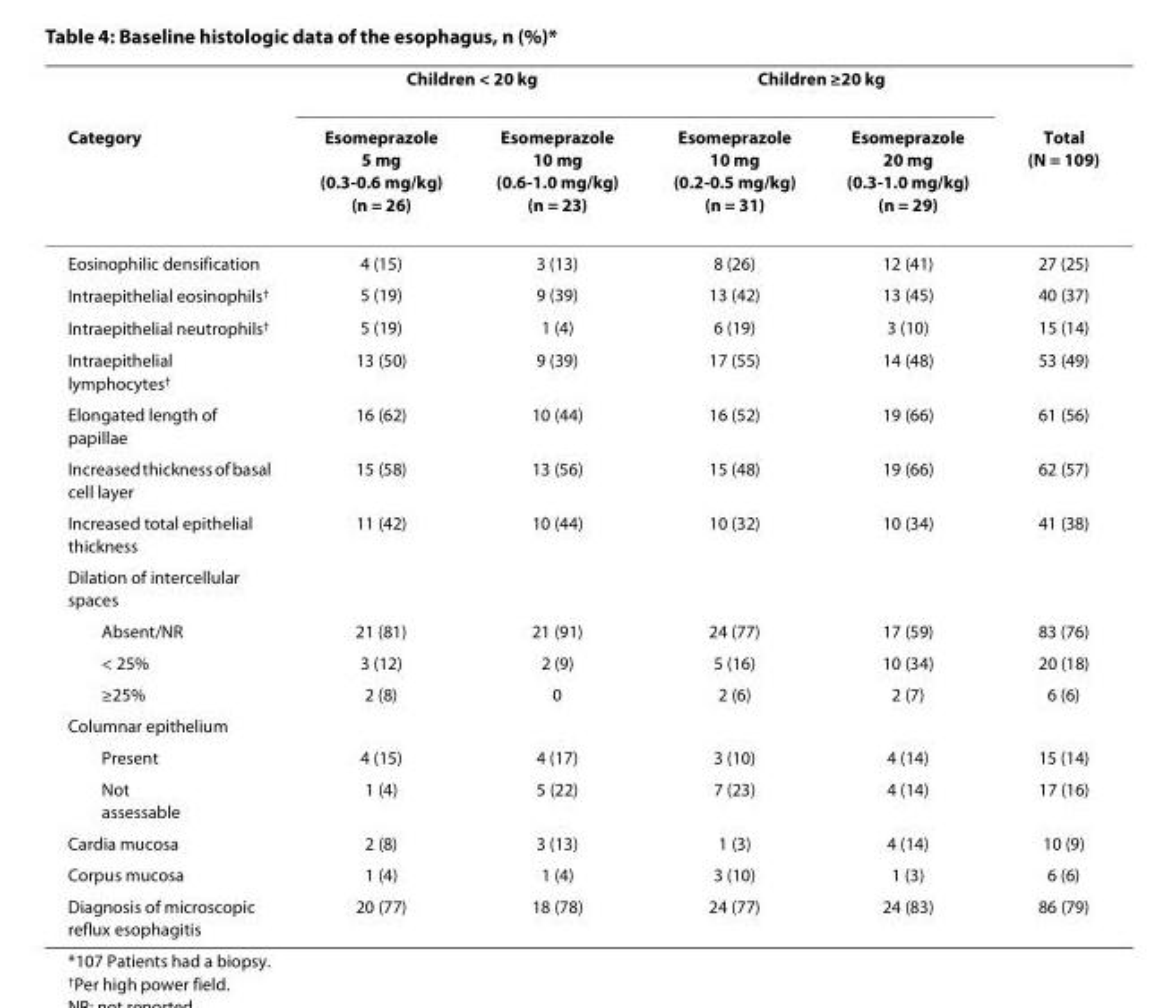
<table><thead><tr><td rowspan="2">Category</td><td colspan="2">Children &lt; 20 kg</td><td colspan="2">Children ≥20 kg</td><td rowspan="2">Total (N = 109)</td></tr><tr><td>Esomeprazole 5 mg (0.3-0.6 mg/kg) (n = 26)</td><td>Esomeprazole 10 mg (0.6-1.0 mg/kg) (n = 23)</td><td>Esomeprazole 10 mg (0.2-0.5 mg/kg) (n = 31)</td><td>Esomeprazole 20 mg (0.3-1.0 mg/kg) (n = 29)</td></tr></thead><tbody><tr><td>Eosinophilic densification</td><td>4 (15)</td><td>3 (13)</td><td>8 (26)</td><td>12 (41)</td><td>27 (25)</td></tr><tr><td>Intraepithelial eosinophils<sup>†</sup></td><td>5 (19)</td><td>9 (39)</td><td>13 (42)</td><td>13 (45)</td><td>40 (37)</td></tr><tr><td>Intraepithelial neutrophils<sup>†</sup></td><td>5 (19)</td><td>1 (4)</td><td>6 (19)</td><td>3 (10)</td><td>15 (14)</td></tr><tr><td>Intraepithelial lymphocytes<sup>†</sup></td><td>13 (50)</td><td>9 (39)</td><td>17 (55)</td><td>14 (48)</td><td>53 (49)</td></tr><tr><td>Elongated length of papillae</td><td>16 (62)</td><td>10 (44)</td><td>16 (52)</td><td>19 (66)</td><td>61 (56)</td></tr><tr><td>Increased thickness of basal cell layer</td><td>15 (58)</td><td>13 (56)</td><td>15 (48)</td><td>19 (66)</td><td>62 (57)</td></tr><tr><td>Increased total epithelial thickness</td><td>11 (42)</td><td>10 (44)</td><td>10 (32)</td><td>10 (34)</td><td>41 (38)</td></tr><tr><td colspan="6">Dilation of intercellular spaces</td></tr><tr><td>Absent/NR</td><td>21 (81)</td><td>21 (91)</td><td>24 (77)</td><td>17 (59)</td><td>83 (76)</td></tr><tr><td>&lt; 25%</td><td>3 (12)</td><td>2 (9)</td><td>5 (16)</td><td>10 (34)</td><td>20 (18)</td></tr><tr><td>≥25%</td><td>2 (8)</td><td>0</td><td>2 (6)</td><td>2 (7)</td><td>6 (6)</td></tr><tr><td colspan="6">Columnar epithelium</td></tr><tr><td>Present</td><td>4 (15)</td><td>4 (17)</td><td>3 (10)</td><td>4 (14)</td><td>15 (14)</td></tr><tr><td>Not assessable</td><td>1 (4)</td><td>5 (22)</td><td>7 (23)</td><td>4 (14)</td><td>17 (16)</td></tr><tr><td>Cardia mucosa</td><td>2 (8)</td><td>3 (13)</td><td>1 (3)</td><td>4 (14)</td><td>10 (9)</td></tr><tr><td>Corpus mucosa</td><td>1 (4)</td><td>1 (4)</td><td>3 (10)</td><td>1 (3)</td><td>6 (6)</td></tr><tr><td>Diagnosis of microscopic reflux esophagitis</td><td>20 (77)</td><td>18 (78)</td><td>24 (77)</td><td>24 (83)</td><td>86 (79)</td></tr></tbody></table>